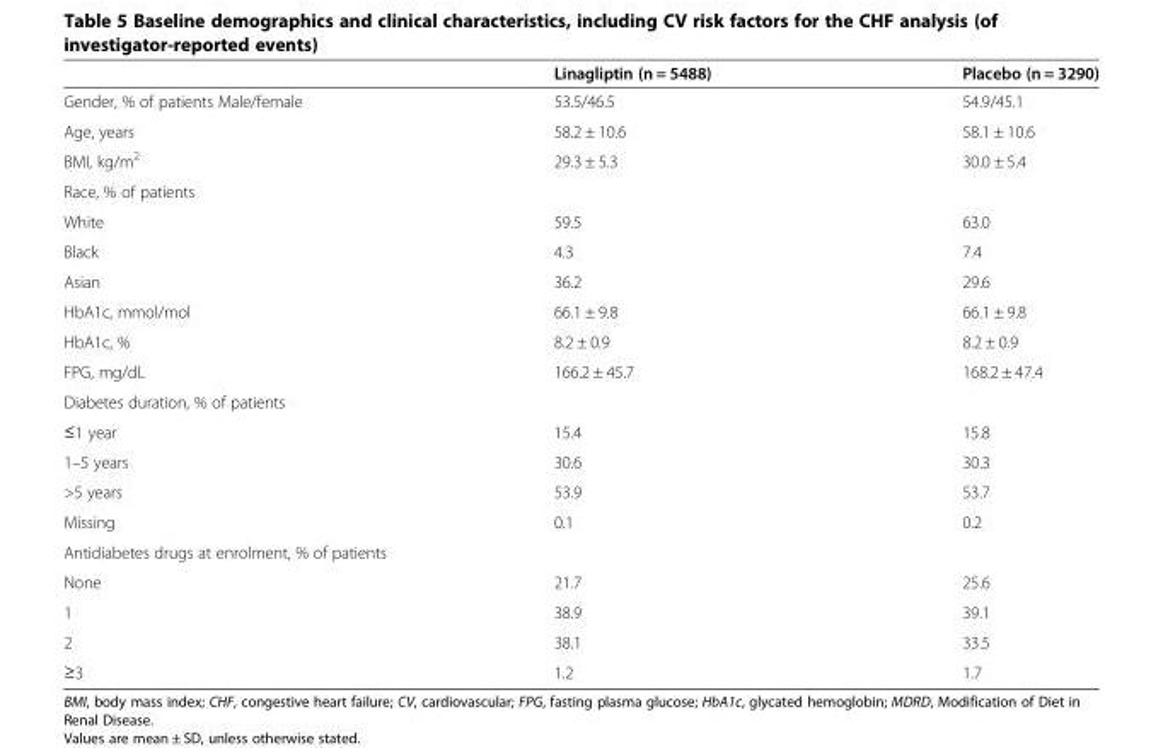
<table><thead><tr><td></td><td>Linagliptin (n = 5488)</td><td>Placebo (n = 3290)</td></tr></thead><tbody><tr><td>Gender, % of patients Male/female</td><td>53.5/46.5</td><td>54.9/45.1</td></tr><tr><td>Age, years</td><td>58.2 ± 10.6</td><td>58.1 ± 10.6</td></tr><tr><td>BMI, kg/m<sup>2</sup></td><td>29.3 ± 5.3</td><td>30.0 ± 5.4</td></tr><tr><td colspan="3">Race, % of patients</td></tr><tr><td>White</td><td>59.5</td><td>63.0</td></tr><tr><td>Black</td><td>4.3</td><td>7.4</td></tr><tr><td>Asian</td><td>36.2</td><td>29.6</td></tr><tr><td>HbA1c, mmol/mol</td><td>66.1 ± 9.8</td><td>66.1 ± 9.8</td></tr><tr><td>HbA1c, %</td><td>8.2 ± 0.9</td><td>8.2 ± 0.9</td></tr><tr><td>FPG, mg/dL</td><td>166.2 ± 45.7</td><td>168.2 ± 47.4</td></tr><tr><td colspan="3">Diabetes duration, % of patients</td></tr><tr><td>≤1 year</td><td>15.4</td><td>15.8</td></tr><tr><td>1–5 years</td><td>30.6</td><td>30.3</td></tr><tr><td>&gt;5 years</td><td>53.9</td><td>53.7</td></tr><tr><td>Missing</td><td>0.1</td><td>0.2</td></tr><tr><td colspan="3">Antidiabetes drugs at enrolment, % of patients</td></tr><tr><td>None</td><td>21.7</td><td>25.6</td></tr><tr><td>1</td><td>38.9</td><td>39.1</td></tr><tr><td>2</td><td>38.1</td><td>33.5</td></tr><tr><td>≥3</td><td>1.2</td><td>1.7</td></tr></tbody></table>